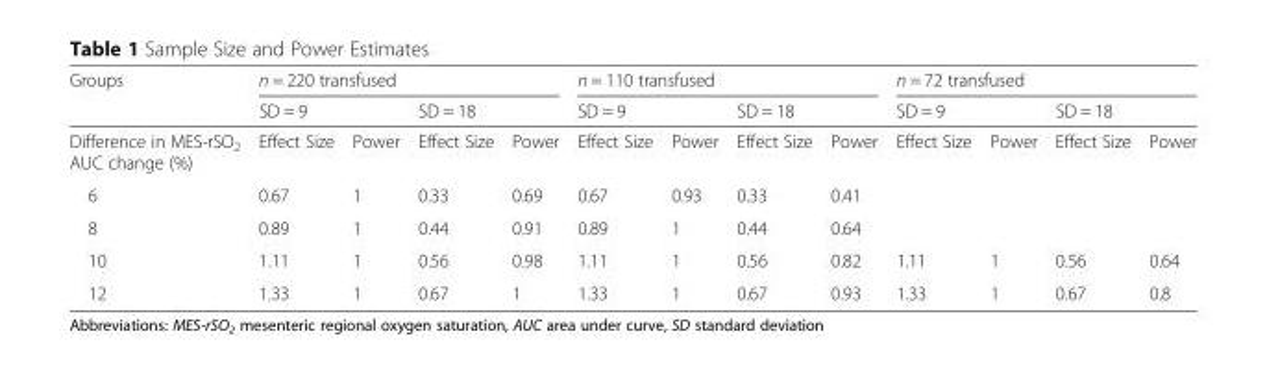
<table><thead><tr><td rowspan="3">Groups Difference in MES-rSO<sub>2</sub> AUC change (%)</td><td colspan="4">n = 220 transfused</td><td colspan="4">n = 110 transfused</td><td colspan="4">n = 72 transfused</td></tr><tr><td colspan="2">SD = 9</td><td colspan="2">SD = 18</td><td colspan="2">SD = 9</td><td colspan="2">SD = 18</td><td colspan="2">SD = 9</td><td colspan="2">SD = 18</td></tr><tr><td>Effect Size</td><td>Power</td><td>Effect Size</td><td>Power</td><td>Effect Size</td><td>Power</td><td>Effect Size</td><td>Power</td><td>Effect Size</td><td>Power</td><td>Effect Size</td><td>Power</td></tr></thead><tbody><tr><td>6</td><td>0.67</td><td>1</td><td>0.33</td><td>0.69</td><td>0.67</td><td>0.93</td><td>0.33</td><td>0.41</td><td></td><td></td><td></td><td></td></tr><tr><td>8</td><td>0.89</td><td>1</td><td>0.44</td><td>0.91</td><td>0.89</td><td>1</td><td>0.44</td><td>0.64</td><td></td><td></td><td></td><td></td></tr><tr><td>10</td><td>1.11</td><td>1</td><td>0.56</td><td>0.98</td><td>1.11</td><td>1</td><td>0.56</td><td>0.82</td><td>1.11</td><td>1</td><td>0.56</td><td>0.64</td></tr><tr><td>12</td><td>1.33</td><td>1</td><td>0.67</td><td>1</td><td>1.33</td><td>1</td><td>0.67</td><td>0.93</td><td>1.33</td><td>1</td><td>0.67</td><td>0.8</td></tr></tbody></table>